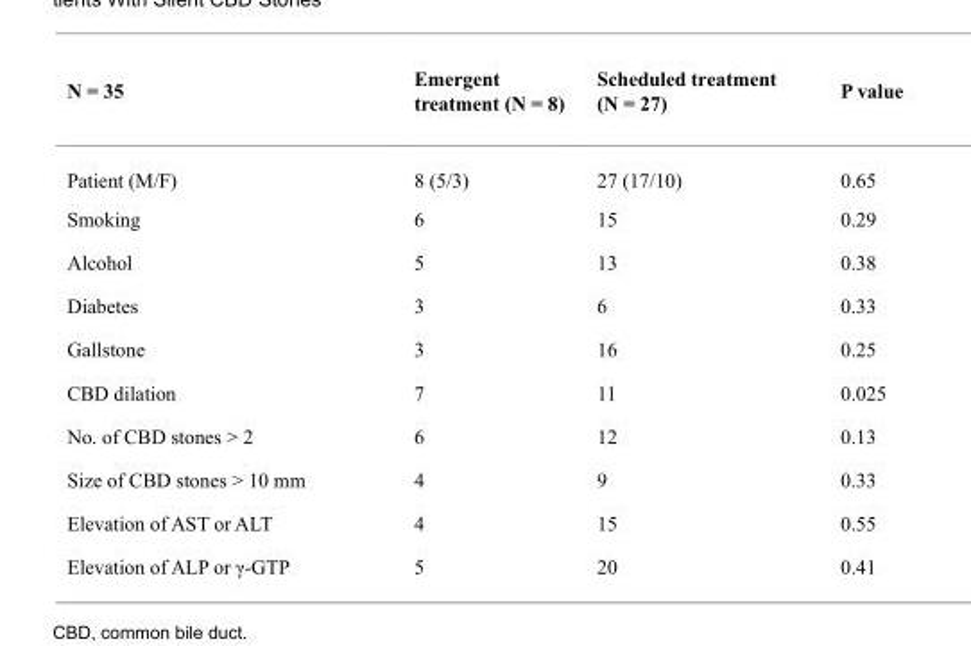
<table><thead><tr><td>N = 35</td><td>Emergent treatment (N = 8)</td><td>Scheduled treatment (N = 27)</td><td>P value</td></tr></thead><tbody><tr><td>Patient (M/F)</td><td>8 (5/3)</td><td>27 (17/10)</td><td>0.65</td></tr><tr><td>Smoking</td><td>6</td><td>15</td><td>0.29</td></tr><tr><td>Alcohol</td><td>5</td><td>13</td><td>0.38</td></tr><tr><td>Diabetes</td><td>3</td><td>6</td><td>0.33</td></tr><tr><td>Gallstone</td><td>3</td><td>16</td><td>0.25</td></tr><tr><td>CBD dilation</td><td>7</td><td>11</td><td>0.025</td></tr><tr><td>No. of CBD stones &gt; 2</td><td>6</td><td>12</td><td>0.13</td></tr><tr><td>Size of CBD stones &gt; 10 mm</td><td>4</td><td>9</td><td>0.33</td></tr><tr><td>Elevation of AST or ALT</td><td>4</td><td>15</td><td>0.55</td></tr><tr><td>Elevation of ALP or γ-GTP</td><td>5</td><td>20</td><td>0.41</td></tr></tbody></table>